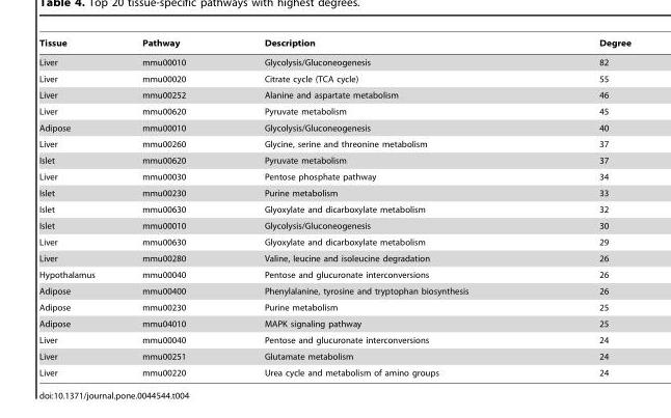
<table><thead><tr><td>Tissue</td><td>Pathway</td><td>Description</td><td>Degree</td></tr></thead><tbody><tr><td>Liver</td><td>mmu00010</td><td>Glycolysis/Gluconeogenesis</td><td>82</td></tr><tr><td>Liver</td><td>mmu00020</td><td>Citrate cycle (TCA cycle)</td><td>55</td></tr><tr><td>Liver</td><td>mmu00252</td><td>Alanine and aspartate metabolism</td><td>46</td></tr><tr><td>Liver</td><td>mmu00620</td><td>Pyruvate metabolism</td><td>45</td></tr><tr><td>Adipose</td><td>mmu00010</td><td>Glycolysis/Gluconeogenesis</td><td>40</td></tr><tr><td>Liver</td><td>mmu00260</td><td>Glycine, serine and threonine metabolism</td><td>37</td></tr><tr><td>Islet</td><td>mmu00620</td><td>Pyruvate metabolism</td><td>37</td></tr><tr><td>Liver</td><td>mmu00030</td><td>Pentose phosphate pathway</td><td>34</td></tr><tr><td>Islet</td><td>mmu00230</td><td>Purine metabolism</td><td>33</td></tr><tr><td>Islet</td><td>mmu00630</td><td>Glyoxylate and dicarboxylate metabolism</td><td>32</td></tr><tr><td>Islet</td><td>mmu00010</td><td>Glycolysis/Gluconeogenesis</td><td>30</td></tr><tr><td>Liver</td><td>mmu00630</td><td>Glyoxylate and dicarboxylate metabolism</td><td>29</td></tr><tr><td>Liver</td><td>mmu00280</td><td>Valine, leucine and isoleucine degradation</td><td>26</td></tr><tr><td>Hypothalamus</td><td>mmu00040</td><td>Pentose and glucuronate interconversions</td><td>26</td></tr><tr><td>Adipose</td><td>mmu00400</td><td>Phenylalanine, tyrosine and tryptophan biosynthesis</td><td>26</td></tr><tr><td>Adipose</td><td>mmu00230</td><td>Purine metabolism</td><td>25</td></tr><tr><td>Adipose</td><td>mmu04010</td><td>MAPK signaling pathway</td><td>25</td></tr><tr><td>Liver</td><td>mmu00040</td><td>Pentose and glucuronate interconversions</td><td>24</td></tr><tr><td>Liver</td><td>mmu00251</td><td>Glutamate metabolism</td><td>24</td></tr><tr><td>Liver</td><td>mmu00220</td><td>Urea cycle and metabolism of amino groups</td><td>24</td></tr></tbody></table>